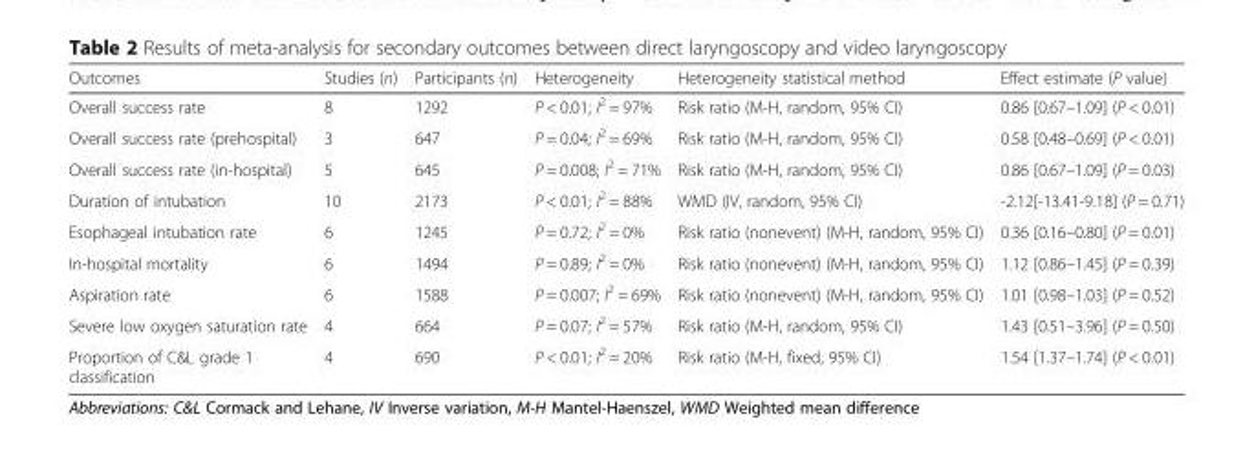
<table><thead><tr><td>Outcomes</td><td>Studies (n)</td><td>Participants (n)</td><td>Heterogeneity</td><td>Heterogeneity statistical method</td><td>Effect estimate (P value)</td></tr></thead><tbody><tr><td>Overall success rate</td><td>8</td><td>1292</td><td>P &lt; 0.01; I<sup>2</sup> = 97%</td><td>Risk ratio (M-H, random, 95% CI)</td><td>0.86 [0.67–1.09] (P &lt; 0.01)</td></tr><tr><td>Overall success rate (prehospital)</td><td>3</td><td>647</td><td>P = 0.04; I<sup>2</sup> = 69%</td><td>Risk ratio (M-H, random, 95% CI)</td><td>0.58 [0.48–0.69] (P &lt; 0.01)</td></tr><tr><td>Overall success rate (in-hospital)</td><td>5</td><td>645</td><td>P = 0.008; I<sup>2</sup> = 71%</td><td>Risk ratio (M-H, random, 95% CI)</td><td>0.86 [0.67–1.09] (P = 0.03)</td></tr><tr><td>Duration of intubation</td><td>10</td><td>2173</td><td>P &lt; 0.01; I<sup>2</sup> = 88%</td><td>WMD (IV, random, 95% CI)</td><td>-2.12[-13.41-9.18] (P = 0.71)</td></tr><tr><td>Esophageal intubation rate</td><td>6</td><td>1245</td><td>P = 0.72; I<sup>2</sup> = 0%</td><td>Risk ratio (nonevent) (M-H, random, 95% CI)</td><td>0.36 [0.16–0.80] (P = 0.01)</td></tr><tr><td>In-hospital mortality</td><td>6</td><td>1494</td><td>P = 0.89; I<sup>2</sup> = 0%</td><td>Risk ratio (nonevent) (M-H, random, 95% CI)</td><td>1.12 [0.86–1.45] (P = 0.39)</td></tr><tr><td>Aspiration rate</td><td>6</td><td>1588</td><td>P = 0.007; I<sup>2</sup> = 69%</td><td>Risk ratio (nonevent) (M-H, random, 95% CI)</td><td>1.01 [0.98–1.03] (P = 0.52)</td></tr><tr><td>Severe low oxygen saturation rate</td><td>4</td><td>664</td><td>P = 0.07; I<sup>2</sup> = 57%</td><td>Risk ratio (M-H, random, 95% CI)</td><td>1.43 [0.51–3.96] (P = 0.50)</td></tr><tr><td>Proportion of C&amp;L grade 1 classification</td><td>4</td><td>690</td><td>P &lt; 0.01; I<sup>2</sup> = 20%</td><td>Risk ratio (M-H, fixed, 95% CI)</td><td>1.54 [1.37–1.74] (P &lt; 0.01)</td></tr></tbody></table>